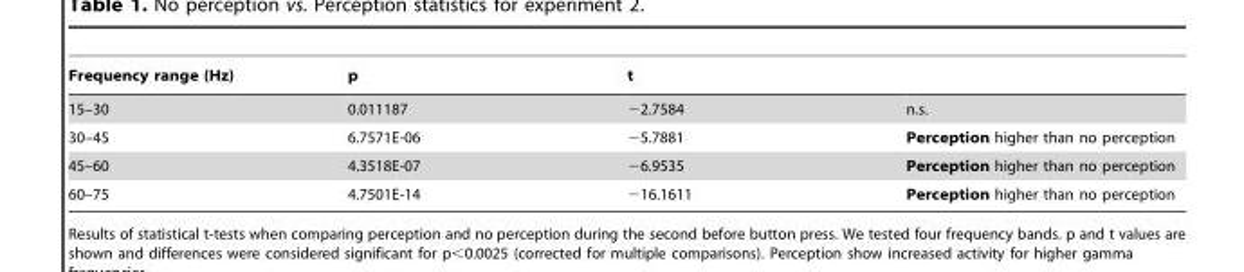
<table><thead><tr><td>Frequency range (Hz)</td><td>p</td><td>t</td><td></td></tr></thead><tbody><tr><td>15–30</td><td>0.011187</td><td>−2.7584</td><td>n.s.</td></tr><tr><td>30–45</td><td>6.7571E-06</td><td>−5.7881</td><td>Perception higher than no perception</td></tr><tr><td>45–60</td><td>4.3518E-07</td><td>−6.9535</td><td>Perception higher than no perception</td></tr><tr><td>60–75</td><td>4.7501E-14</td><td>−16.1611</td><td>Perception higher than no perception</td></tr></tbody></table>